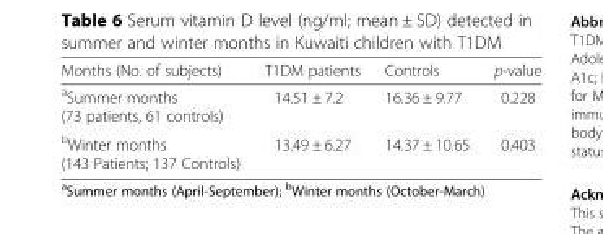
<table><thead><tr><td>Months (No. of subjects)</td><td>T1DM patients</td><td>Controls</td><td>p-value</td></tr></thead><tbody><tr><td><sup>a</sup>Summer months (73 patients, 61 controls)</td><td>14.51 ± 7.2</td><td>16.36 ± 9.77</td><td>0.228</td></tr><tr><td><sup>b</sup>Winter months (143 Patients; 137 Controls)</td><td>13.49 ± 6.27</td><td>14.37 ± 10.65</td><td>0.403</td></tr></tbody></table>